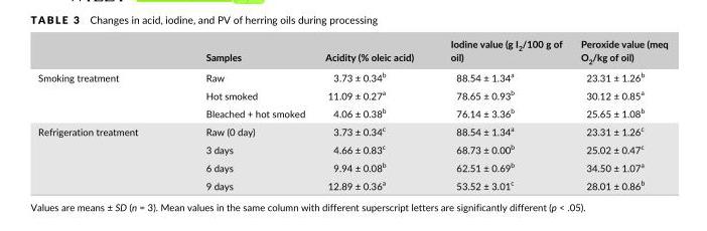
<table><thead><tr><td></td><td>Samples</td><td>Acidity (% oleic acid)</td><td>Iodine value (g I<sub>2</sub>/100 g of oil)</td><td>Peroxide value (meq O<sub>2</sub>/kg of oil)</td></tr></thead><tbody><tr><td rowspan="3">Smoking treatment</td><td>Raw</td><td>3.73 ± 0.34<sup>b</sup></td><td>88.54 ± 1.34<sup>a</sup></td><td>23.31 ± 1.26<sup>b</sup></td></tr><tr><td>Hot smoked</td><td>11.09 ± 0.27<sup>a</sup></td><td>78.65 ± 0.93<sup>b</sup></td><td>30.12 ± 0.85<sup>a</sup></td></tr><tr><td>Bleached + hot smoked</td><td>4.06 ± 0.38<sup>b</sup></td><td>76.14 ± 3.36<sup>b</sup></td><td>25.65 ± 1.08<sup>b</sup></td></tr><tr><td rowspan="4">Refrigeration treatment</td><td>Raw (0 day)</td><td>3.73 ± 0.34<sup>c</sup></td><td>88.54 ± 1.34<sup>a</sup></td><td>23.31 ± 1.26<sup>c</sup></td></tr><tr><td>3 days</td><td>4.66 ± 0.83<sup>c</sup></td><td>68.73 ± 0.00<sup>b</sup></td><td>25.02 ± 0.47<sup>c</sup></td></tr><tr><td>6 days</td><td>9.94 ± 0.08<sup>b</sup></td><td>62.51 ± 0.69<sup>b</sup></td><td>34.50 ± 1.07<sup>a</sup></td></tr><tr><td>9 days</td><td>12.89 ± 0.36<sup>a</sup></td><td>53.52 ± 3.01<sup>c</sup></td><td>28.01 ± 0.86<sup>b</sup></td></tr></tbody></table>